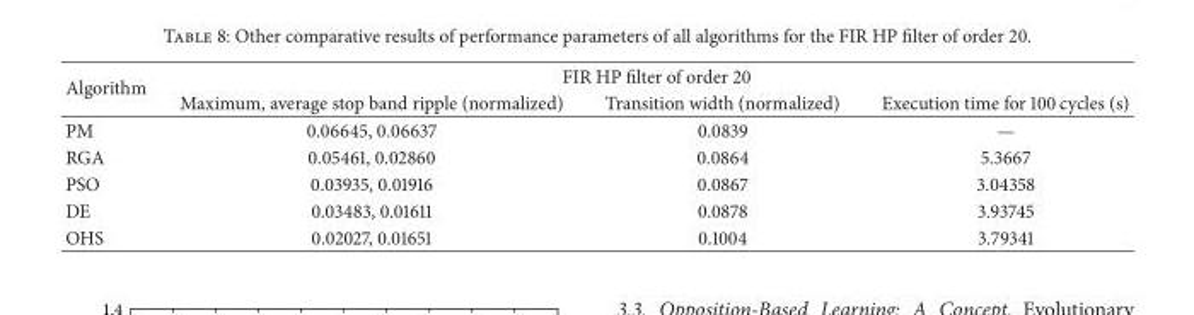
<table><thead><tr><td rowspan="2">Algorithm</td><td colspan="3">FIR HP filter of order 20</td></tr><tr><td>Maximum, average stop band ripple (normalized)</td><td>Transition width (normalized)</td><td>Execution time for 100 cycles (s)</td></tr></thead><tbody><tr><td>PM</td><td>0.06645, 0.06637</td><td>0.0839</td><td>—</td></tr><tr><td>RGA</td><td>0.05461, 0.02860</td><td>0.0864</td><td>5.3667</td></tr><tr><td>PSO</td><td>0.03935, 0.01916</td><td>0.0867</td><td>3.04358</td></tr><tr><td>DE</td><td>0.03483, 0.01611</td><td>0.0878</td><td>3.93745</td></tr><tr><td>OHS</td><td>0.02027, 0.01651</td><td>0.1004</td><td>3.79341</td></tr></tbody></table>